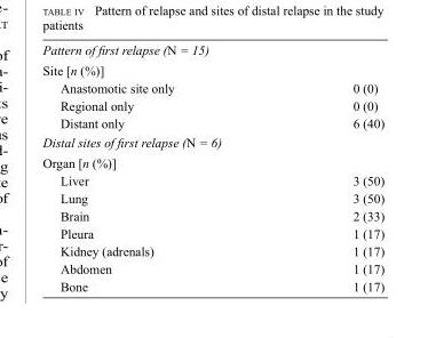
<table><tbody><tr><td colspan="2">Pattern of first relapse (N = 15)</td></tr><tr><td colspan="2">Site [n (%)]</td></tr><tr><td>Anastomotic site only</td><td>0 (0)</td></tr><tr><td>Regional only</td><td>0 (0)</td></tr><tr><td>Distant only</td><td>6 (40)</td></tr><tr><td colspan="2">Distal sites of first relapse (N = 6)</td></tr><tr><td colspan="2">Organ [n (%)]</td></tr><tr><td>Liver</td><td>3 (50)</td></tr><tr><td>Lung</td><td>3 (50)</td></tr><tr><td>Brain</td><td>2 (33)</td></tr><tr><td>Pleura</td><td>1 (17)</td></tr><tr><td>Kidney (adrenals)</td><td>1 (17)</td></tr><tr><td>Abdomen</td><td>1 (17)</td></tr><tr><td>Bone</td><td>1 (17)</td></tr></tbody></table>